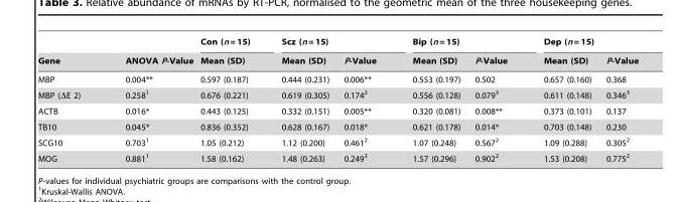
<table><thead><tr><td rowspan="2">Gene</td><td rowspan="2">ANOVA P-Value</td><td rowspan="2">Con (n = 15) Mean (SD)</td><td colspan="2">Scz (n = 15)</td><td colspan="2">Bip (n = 15)</td><td colspan="2">Dep (n = 15)</td></tr><tr><td>Mean (SD)</td><td>P-Value</td><td>Mean (SD)</td><td>P-Value</td><td>Mean (SD)</td><td>P-Value</td></tr></thead><tbody><tr><td>MBP</td><td>0.004**</td><td>0.597 (0.187)</td><td>0.444 (0.231)</td><td>0.006**</td><td>0.553 (0.197)</td><td>0.502</td><td>0.657 (0.160)</td><td>0.368</td></tr><tr><td>MBP (ΔE 2)</td><td>0.258<sup>1</sup></td><td>0.676 (0.221)</td><td>0.619 (0.305)</td><td>0.174<sup>2</sup></td><td>0.556 (0.128)</td><td>0.079<sup>3</sup></td><td>0.611 (0.148)</td><td>0.346<sup>3</sup></td></tr><tr><td>ACTB</td><td>0.016*</td><td>0.443 (0.125)</td><td>0.332 (0.151)</td><td>0.005**</td><td>0.320 (0.081)</td><td>0.008**</td><td>0.373 (0.101)</td><td>0.137</td></tr><tr><td>TB10</td><td>0.045*</td><td>0.836 (0.352)</td><td>0.628 (0.167)</td><td>0.018*</td><td>0.621 (0.178)</td><td>0.014*</td><td>0.703 (0.148)</td><td>0.230</td></tr><tr><td>SCG10</td><td>0.703<sup>1</sup></td><td>1.05 (0.212)</td><td>1.12 (0.200)</td><td>0.461<sup>2</sup></td><td>1.07 (0.248)</td><td>0.567<sup>2</sup></td><td>1.09 (0.288)</td><td>0.305<sup>2</sup></td></tr><tr><td>MOG</td><td>0.881<sup>1</sup></td><td>1.58 (0.162)</td><td>1.48 (0.263)</td><td>0.249<sup>3</sup></td><td>1.57 (0.296)</td><td>0.902<sup>2</sup></td><td>1.53 (0.208)</td><td>0.775<sup>2</sup></td></tr></tbody></table>